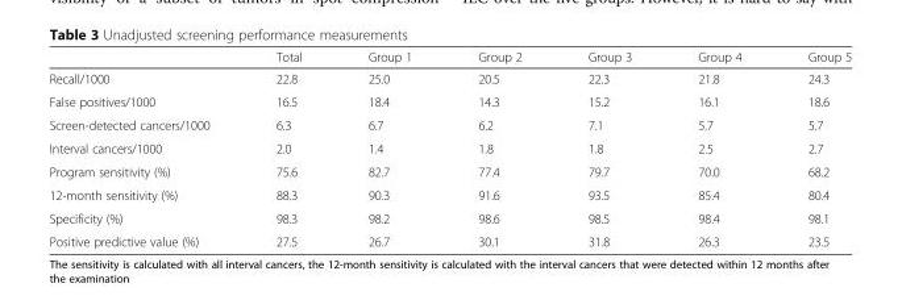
<table><thead><tr><td></td><td>Total</td><td>Group 1</td><td>Group 2</td><td>Group 3</td><td>Group 4</td><td>Group 5</td></tr></thead><tbody><tr><td>Recall/1000</td><td>22.8</td><td>25.0</td><td>20.5</td><td>22.3</td><td>21.8</td><td>24.3</td></tr><tr><td>False positives/1000</td><td>16.5</td><td>18.4</td><td>14.3</td><td>15.2</td><td>16.1</td><td>18.6</td></tr><tr><td>Screen-detected cancers/1000</td><td>6.3</td><td>6.7</td><td>6.2</td><td>7.1</td><td>5.7</td><td>5.7</td></tr><tr><td>Interval cancers/1000</td><td>2.0</td><td>1.4</td><td>1.8</td><td>1.8</td><td>2.5</td><td>2.7</td></tr><tr><td>Program sensitivity (%)</td><td>75.6</td><td>82.7</td><td>77.4</td><td>79.7</td><td>70.0</td><td>68.2</td></tr><tr><td>12-month sensitivity (%)</td><td>88.3</td><td>90.3</td><td>91.6</td><td>93.5</td><td>85.4</td><td>80.4</td></tr><tr><td>Specificity (%)</td><td>98.3</td><td>98.2</td><td>98.6</td><td>98.5</td><td>98.4</td><td>98.1</td></tr><tr><td>Positive predictive value (%)</td><td>27.5</td><td>26.7</td><td>30.1</td><td>31.8</td><td>26.3</td><td>23.5</td></tr></tbody></table>